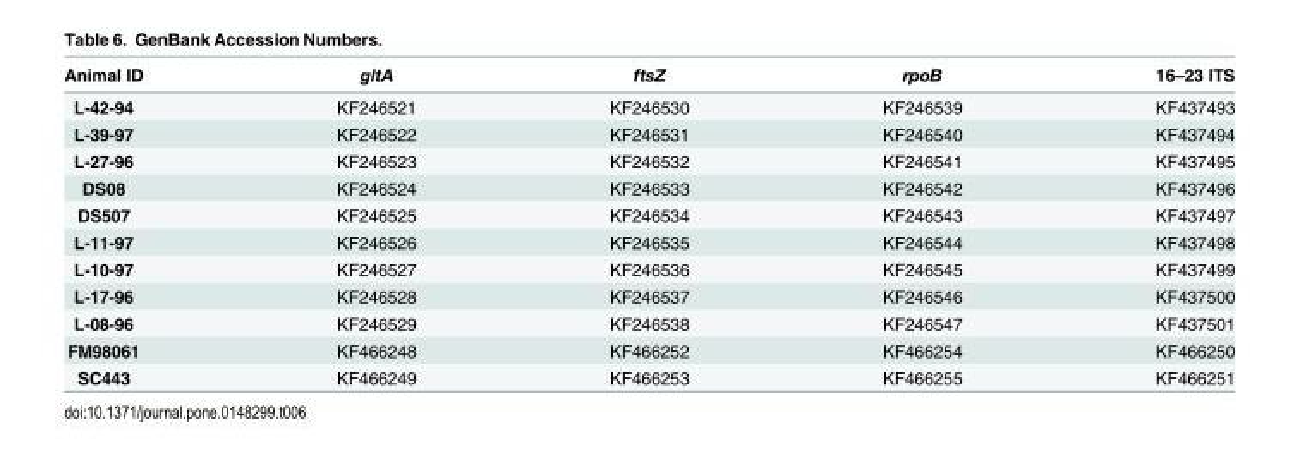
<table><thead><tr><td>Animal ID</td><td>gltA</td><td>ftsZ</td><td>rpoB</td><td>16–23 ITS</td></tr></thead><tbody><tr><td>L-42-94</td><td>KF246521</td><td>KF246530</td><td>KF246539</td><td>KF437493</td></tr><tr><td>L-39-97</td><td>KF246522</td><td>KF246531</td><td>KF246540</td><td>KF437494</td></tr><tr><td>L-27-96</td><td>KF246523</td><td>KF246532</td><td>KF246541</td><td>KF437495</td></tr><tr><td>DS08</td><td>KF246524</td><td>KF246533</td><td>KF246542</td><td>KF437496</td></tr><tr><td>DS507</td><td>KF246525</td><td>KF246534</td><td>KF246543</td><td>KF437497</td></tr><tr><td>L-11-97</td><td>KF246526</td><td>KF246535</td><td>KF246544</td><td>KF437498</td></tr><tr><td>L-10-97</td><td>KF246527</td><td>KF246536</td><td>KF246545</td><td>KF437499</td></tr><tr><td>L-17-96</td><td>KF246528</td><td>KF246537</td><td>KF246546</td><td>KF437500</td></tr><tr><td>L-08-96</td><td>KF246529</td><td>KF246538</td><td>KF246547</td><td>KF437501</td></tr><tr><td>FM98061</td><td>KF466248</td><td>KF466252</td><td>KF466254</td><td>KF466250</td></tr><tr><td>SC443</td><td>KF466249</td><td>KF466253</td><td>KF466255</td><td>KF466251</td></tr></tbody></table>